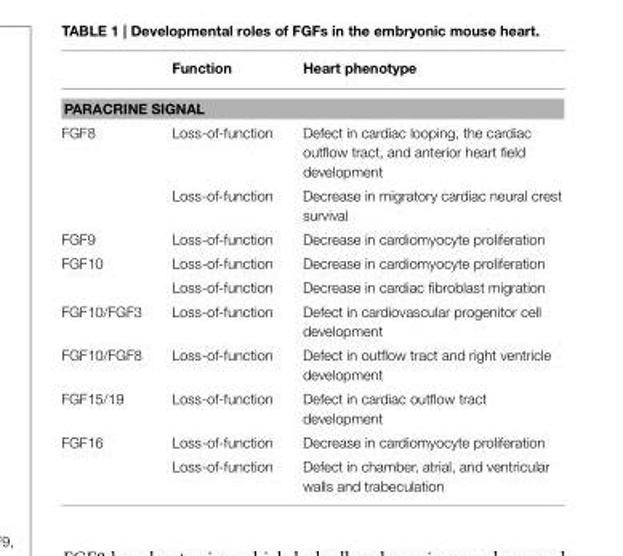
<table><thead><tr><td></td><td>Function</td><td>Heart phenotype</td></tr></thead><tbody><tr><td colspan="3">PARACRINE SIGNAL</td></tr><tr><td rowspan="2">FGF8</td><td>Loss-of-function</td><td>Defect in cardiac looping, the cardiac outflow tract, and anterior heart field development</td></tr><tr><td>Loss-of-function</td><td>Decrease in migratory cardiac neural crest survival</td></tr><tr><td>FGF9</td><td>Loss-of-function</td><td>Decrease in cardiomyocyte proliferation</td></tr><tr><td rowspan="2">FGF10</td><td>Loss-of-function</td><td>Decrease in cardiomyocyte proliferation</td></tr><tr><td>Loss-of-function</td><td>Decrease in cardiac fibroblast migration</td></tr><tr><td>FGF10/FGF3</td><td>Loss-of-function</td><td>Defect in cardiovascular progenitor cell development</td></tr><tr><td>FGF10/FGF8</td><td>Loss-of-function</td><td>Defect in outflow tract and right ventricle development</td></tr><tr><td>FGF15/19</td><td>Loss-of-function</td><td>Defect in cardiac outflow tract development</td></tr><tr><td rowspan="2">FGF16</td><td>Loss-of-function</td><td>Decrease in cardiomyocyte proliferation</td></tr><tr><td>Loss-of-function</td><td>Defect in chamber, atrial, and ventricular walls and trabeculation</td></tr></tbody></table>